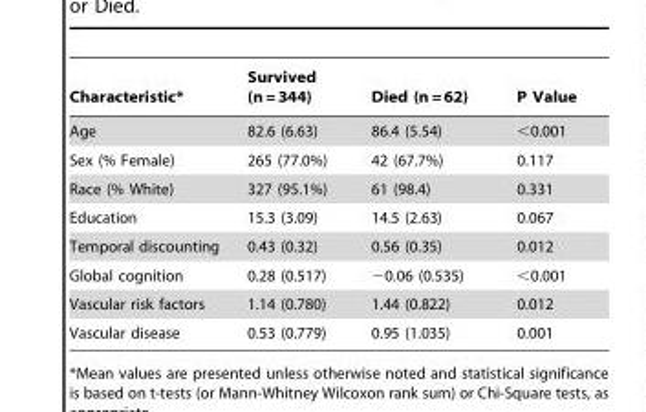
<table><thead><tr><td>Characteristic*</td><td>Survived (n = 344)</td><td>Died (n = 62)</td><td>P Value</td></tr></thead><tbody><tr><td>Age</td><td>82.6 (6.63)</td><td>86.4 (5.54)</td><td>&lt;0.001</td></tr><tr><td>Sex (% Female)</td><td>265 (77.0%)</td><td>42 (67.7%)</td><td>0.117</td></tr><tr><td>Race (% White)</td><td>327 (95.1%)</td><td>61 (98.4)</td><td>0.331</td></tr><tr><td>Education</td><td>15.3 (3.09)</td><td>14.5 (2.63)</td><td>0.067</td></tr><tr><td>Temporal discounting</td><td>0.43 (0.32)</td><td>0.56 (0.35)</td><td>0.012</td></tr><tr><td>Global cognition</td><td>0.28 (0.517)</td><td>−0.06 (0.535)</td><td>&lt;0.001</td></tr><tr><td>Vascular risk factors</td><td>1.14 (0.780)</td><td>1.44 (0.822)</td><td>0.012</td></tr><tr><td>Vascular disease</td><td>0.53 (0.779)</td><td>0.95 (1.035)</td><td>0.001</td></tr></tbody></table>